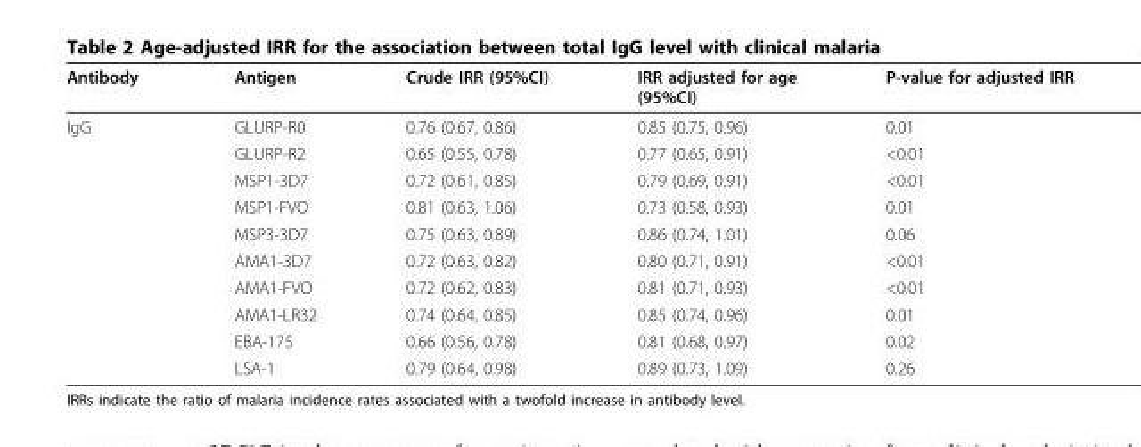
<table><thead><tr><td>Antibody</td><td>Antigen</td><td>Crude IRR (95%CI)</td><td>IRR adjusted for age (95%CI)</td><td>P-value for adjusted IRR</td></tr></thead><tbody><tr><td rowspan="10">IgG</td><td>GLURP-R0</td><td>0.76 (0.67, 0.86)</td><td>0.85 (0.75, 0.96)</td><td>0.01</td></tr><tr><td>GLURP-R2</td><td>0.65 (0.55, 0.78)</td><td>0.77 (0.65, 0.91)</td><td>&lt;0.01</td></tr><tr><td>MSP1-3D7</td><td>0.72 (0.61, 0.85)</td><td>0.79 (0.69, 0.91)</td><td>&lt;0.01</td></tr><tr><td>MSP1-FVO</td><td>0.81 (0.63, 1.06)</td><td>0.73 (0.58, 0.93)</td><td>0.01</td></tr><tr><td>MSP3-3D7</td><td>0.75 (0.63, 0.89)</td><td>0.86 (0.74, 1.01)</td><td>0.06</td></tr><tr><td>AMA1-3D7</td><td>0.72 (0.63, 0.82)</td><td>0.80 (0.71, 0.91)</td><td>&lt;0.01</td></tr><tr><td>AMA1-FVO</td><td>0.72 (0.62, 0.83)</td><td>0.81 (0.71, 0.93)</td><td>&lt;0.01</td></tr><tr><td>AMA1-LR32</td><td>0.74 (0.64, 0.85)</td><td>0.85 (0.74, 0.96)</td><td>0.01</td></tr><tr><td>EBA-175</td><td>0.66 (0.56, 0.78)</td><td>0.81 (0.68, 0.97)</td><td>0.02</td></tr><tr><td>LSA-1</td><td>0.79 (0.64, 0.98)</td><td>0.89 (0.73, 1.09)</td><td>0.26</td></tr></tbody></table>